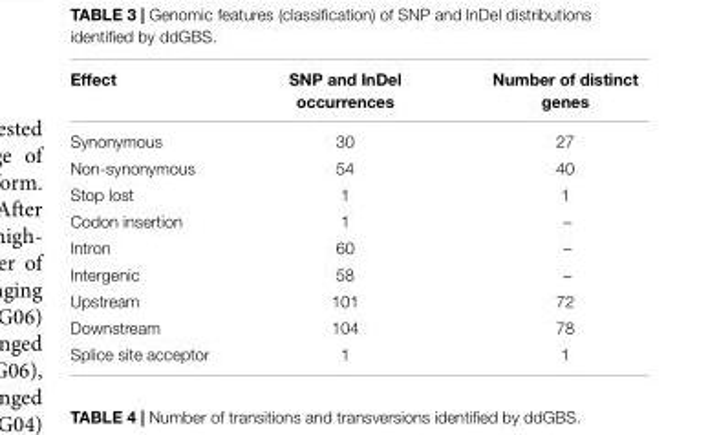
<table><thead><tr><td>Effect</td><td>SNP and InDel occurrences</td><td>Number of distinct genes</td></tr></thead><tbody><tr><td>Synonymous</td><td>30</td><td>27</td></tr><tr><td>Non-synonymous</td><td>54</td><td>40</td></tr><tr><td>Stop lost</td><td>1</td><td>1</td></tr><tr><td>Codon insertion</td><td>1</td><td>–</td></tr><tr><td>Intron</td><td>60</td><td>–</td></tr><tr><td>Intergenic</td><td>58</td><td>–</td></tr><tr><td>Upstream</td><td>101</td><td>72</td></tr><tr><td>Downstream</td><td>104</td><td>78</td></tr><tr><td>Splice site acceptor</td><td>1</td><td>1</td></tr></tbody></table>